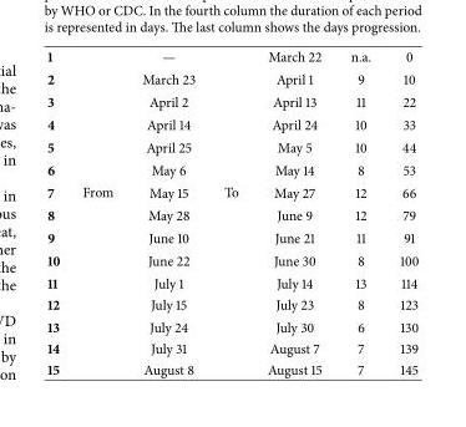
<table><tbody><tr><td>1</td><td rowspan="15">From</td><td>—</td><td rowspan="15">To</td><td>March 22</td><td>n.a.</td><td>0</td></tr><tr><td>2</td><td>March 23</td><td>April 1</td><td>9</td><td>10</td></tr><tr><td>3</td><td>April 2</td><td>April 13</td><td>11</td><td>22</td></tr><tr><td>4</td><td>April 14</td><td>April 24</td><td>10</td><td>33</td></tr><tr><td>5</td><td>April 25</td><td>May 5</td><td>10</td><td>44</td></tr><tr><td>6</td><td>May 6</td><td>May 14</td><td>8</td><td>53</td></tr><tr><td>7</td><td>May 15</td><td>May 27</td><td>12</td><td>66</td></tr><tr><td>8</td><td>May 28</td><td>June 9</td><td>12</td><td>79</td></tr><tr><td>9</td><td>June 10</td><td>June 21</td><td>11</td><td>91</td></tr><tr><td>10</td><td>June 22</td><td>June 30</td><td>8</td><td>100</td></tr><tr><td>11</td><td>July 1</td><td>July 14</td><td>13</td><td>114</td></tr><tr><td>12</td><td>July 15</td><td>July 23</td><td>8</td><td>123</td></tr><tr><td>13</td><td>July 24</td><td>July 30</td><td>6</td><td>130</td></tr><tr><td>14</td><td>July 31</td><td>August 7</td><td>7</td><td>139</td></tr><tr><td>15</td><td>August 8</td><td>August 15</td><td>7</td><td>145</td></tr></tbody></table>